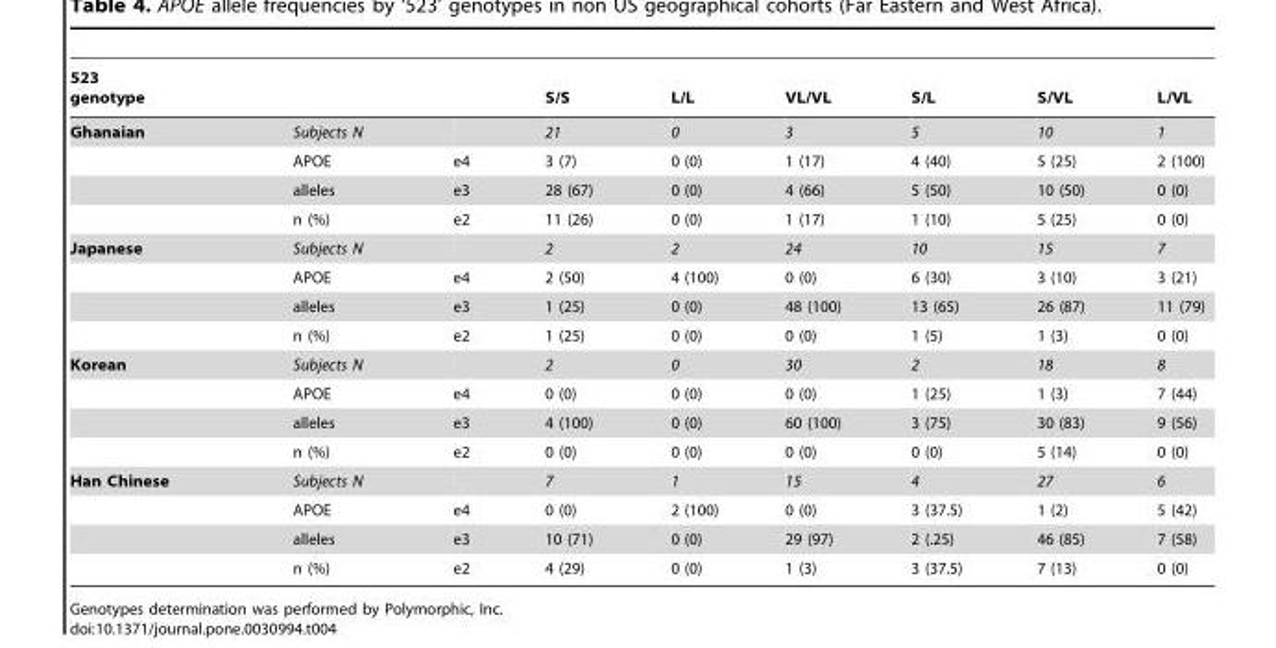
<table><thead><tr><td colspan="3">523 genotype</td><td rowspan="2">S/S 21</td><td rowspan="2">L/L 0</td><td rowspan="2">VL/VL 3</td><td rowspan="2">S/L 5</td><td rowspan="2">S/VL 10</td><td rowspan="2">L/VL 1</td></tr><tr><td>Ghanaian</td><td>Subjects N</td><td></td></tr></thead><tbody><tr><td></td><td>APOE</td><td>e4</td><td>3 (7)</td><td>0 (0)</td><td>1 (17)</td><td>4 (40)</td><td>5 (25)</td><td>2 (100)</td></tr><tr><td></td><td>alleles</td><td>e3</td><td>28 (67)</td><td>0 (0)</td><td>4 (66)</td><td>5 (50)</td><td>10 (50)</td><td>0 (0)</td></tr><tr><td></td><td>n (%)</td><td>e2</td><td>11 (26)</td><td>0 (0)</td><td>1 (17)</td><td>1 (10)</td><td>5 (25)</td><td>0 (0)</td></tr><tr><td rowspan="4">Japanese</td><td>Subjects N</td><td></td><td>2</td><td>2</td><td>24</td><td>10</td><td>15</td><td>7</td></tr><tr><td>APOE</td><td>e4</td><td>2 (50)</td><td>4 (100)</td><td>0 (0)</td><td>6 (30)</td><td>3 (10)</td><td>3 (21)</td></tr><tr><td>alleles</td><td>e3</td><td>1 (25)</td><td>0 (0)</td><td>48 (100)</td><td>13 (65)</td><td>26 (87)</td><td>11 (79)</td></tr><tr><td>n (%)</td><td>e2</td><td>1 (25)</td><td>0 (0)</td><td>0 (0)</td><td>1 (5)</td><td>1 (3)</td><td>0 (0)</td></tr><tr><td rowspan="4">Korean</td><td>Subjects N</td><td></td><td>2</td><td>0</td><td>30</td><td>2</td><td>18</td><td>8</td></tr><tr><td>APOE</td><td>e4</td><td>0 (0)</td><td>0 (0)</td><td>0 (0)</td><td>1 (25)</td><td>1 (3)</td><td>7 (44)</td></tr><tr><td>alleles</td><td>e3</td><td>4 (100)</td><td>0 (0)</td><td>60 (100)</td><td>3 (75)</td><td>30 (83)</td><td>9 (56)</td></tr><tr><td>n (%)</td><td>e2</td><td>0 (0)</td><td>0 (0)</td><td>0 (0)</td><td>0 (0)</td><td>5 (14)</td><td>0 (0)</td></tr><tr><td rowspan="4">Han Chinese</td><td>Subjects N</td><td></td><td>7</td><td>1</td><td>15</td><td>4</td><td>27</td><td>6</td></tr><tr><td>APOE</td><td>e4</td><td>0 (0)</td><td>2 (100)</td><td>0 (0)</td><td>3 (37.5)</td><td>1 (2)</td><td>5 (42)</td></tr><tr><td>alleles</td><td>e3</td><td>10 (71)</td><td>0 (0)</td><td>29 (97)</td><td>2 (.25)</td><td>46 (85)</td><td>7 (58)</td></tr><tr><td>n (%)</td><td>e2</td><td>4 (29)</td><td>0 (0)</td><td>1 (3)</td><td>3 (37.5)</td><td>7 (13)</td><td>0 (0)</td></tr></tbody></table>